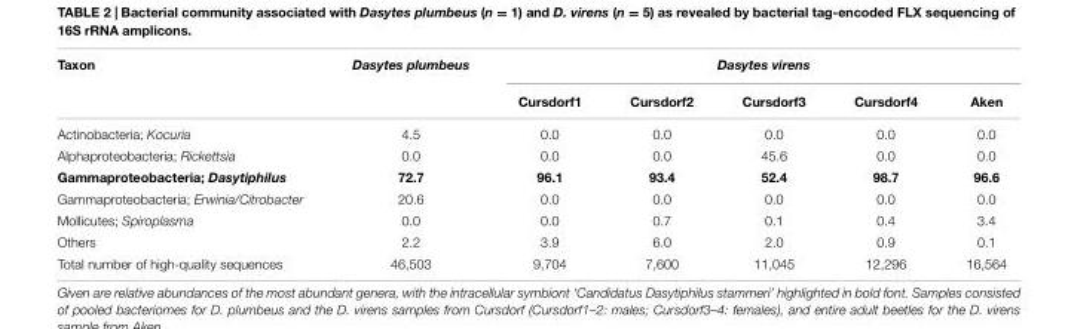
<table><thead><tr><td rowspan="2">Taxon</td><td rowspan="2">Dasytes plumbeus</td><td colspan="5">Dasytes virens</td></tr><tr><td>Cursdorf1</td><td>Cursdorf2</td><td>Cursdorf3</td><td>Cursdorf4</td><td>Aken</td></tr></thead><tbody><tr><td>Actinobacteria; Kocuria</td><td>4.5</td><td>0.0</td><td>0.0</td><td>0.0</td><td>0.0</td><td>0.0</td></tr><tr><td>Alphaproteobacteria; Rickettsia</td><td>0.0</td><td>0.0</td><td>0.0</td><td>45.6</td><td>0.0</td><td>0.0</td></tr><tr><td>Gammaproteobacteria; Dasytiphilus</td><td>72.7</td><td>96.1</td><td>93.4</td><td>52.4</td><td>98.7</td><td>96.6</td></tr><tr><td>Gammaproteobacteria; Erwinia/Citrobacter</td><td>20.6</td><td>0.0</td><td>0.0</td><td>0.0</td><td>0.0</td><td>0.0</td></tr><tr><td>Mollicutes; Spiroplasma</td><td>0.0</td><td>0.0</td><td>0.7</td><td>0.1</td><td>0.4</td><td>3.4</td></tr><tr><td>Others</td><td>2.2</td><td>3.9</td><td>6.0</td><td>2.0</td><td>0.9</td><td>0.1</td></tr><tr><td>Total number of high-quality sequences</td><td>46,503</td><td>9,704</td><td>7,600</td><td>11,045</td><td>12,296</td><td>16,564</td></tr></tbody></table>